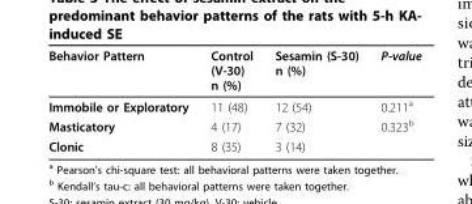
<table><thead><tr><td>Behavior Pattern</td><td>Control (V-30) n (%)</td><td>Sesamin (S-30) n (%)</td><td>P-value</td></tr></thead><tbody><tr><td>Immobile or Exploratory</td><td>11 (48)</td><td>12 (54)</td><td>0.211<sup>a</sup></td></tr><tr><td>Masticatory</td><td>4 (17)</td><td>7 (32)</td><td>0.323<sup>b</sup></td></tr><tr><td>Clonic</td><td>8 (35)</td><td>3 (14)</td><td></td></tr></tbody></table>